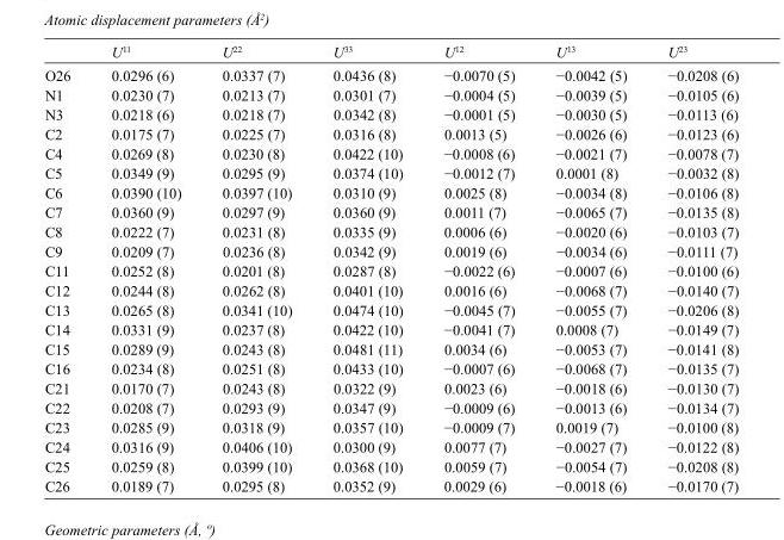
<table><thead><tr><td></td><td>U<sup>11</sup></td><td>U<sup>22</sup></td><td>U<sup>33</sup></td><td>U<sup>12</sup></td><td>U<sup>13</sup></td><td>U<sup>23</sup></td></tr></thead><tbody><tr><td>O26</td><td>0.0296 (6)</td><td>0.0337 (7)</td><td>0.0436 (8)</td><td>−0.0070 (5)</td><td>−0.0042 (5)</td><td>−0.0208 (6)</td></tr><tr><td>N1</td><td>0.0230 (7)</td><td>0.0213 (7)</td><td>0.0301 (7)</td><td>−0.0004 (5)</td><td>−0.0039 (5)</td><td>−0.0105 (6)</td></tr><tr><td>N3</td><td>0.0218 (6)</td><td>0.0218 (7)</td><td>0.0342 (8)</td><td>−0.0001 (5)</td><td>−0.0030 (5)</td><td>−0.0113 (6)</td></tr><tr><td>C2</td><td>0.0175 (7)</td><td>0.0225 (7)</td><td>0.0316 (8)</td><td>0.0013 (5)</td><td>−0.0026 (6)</td><td>−0.0123 (6)</td></tr><tr><td>C4</td><td>0.0269 (8)</td><td>0.0230 (8)</td><td>0.0422 (10)</td><td>−0.0008 (6)</td><td>−0.0021 (7)</td><td>−0.0078 (7)</td></tr><tr><td>C5</td><td>0.0349 (9)</td><td>0.0295 (9)</td><td>0.0374 (10)</td><td>−0.0012 (7)</td><td>0.0001 (8)</td><td>−0.0032 (8)</td></tr><tr><td>C6</td><td>0.0390 (10)</td><td>0.0397 (10)</td><td>0.0310 (9)</td><td>0.0025 (8)</td><td>−0.0034 (8)</td><td>−0.0106 (8)</td></tr><tr><td>C7</td><td>0.0360 (9)</td><td>0.0297 (9)</td><td>0.0360 (9)</td><td>0.0011 (7)</td><td>−0.0065 (7)</td><td>−0.0135 (8)</td></tr><tr><td>C8</td><td>0.0222 (7)</td><td>0.0231 (8)</td><td>0.0335 (9)</td><td>0.0006 (6)</td><td>−0.0020 (6)</td><td>−0.0103 (7)</td></tr><tr><td>C9</td><td>0.0209 (7)</td><td>0.0236 (8)</td><td>0.0342 (9)</td><td>0.0019 (6)</td><td>−0.0034 (6)</td><td>−0.0111 (7)</td></tr><tr><td>C11</td><td>0.0252 (8)</td><td>0.0201 (8)</td><td>0.0287 (8)</td><td>−0.0022 (6)</td><td>−0.0007 (6)</td><td>−0.0100 (6)</td></tr><tr><td>C12</td><td>0.0244 (8)</td><td>0.0262 (8)</td><td>0.0401 (10)</td><td>0.0016 (6)</td><td>−0.0068 (7)</td><td>−0.0140 (7)</td></tr><tr><td>C13</td><td>0.0265 (8)</td><td>0.0341 (10)</td><td>0.0474 (10)</td><td>−0.0045 (7)</td><td>−0.0055 (7)</td><td>−0.0206 (8)</td></tr><tr><td>C14</td><td>0.0331 (9)</td><td>0.0237 (8)</td><td>0.0422 (10)</td><td>−0.0041 (7)</td><td>0.0008 (7)</td><td>−0.0149 (7)</td></tr><tr><td>C15</td><td>0.0289 (9)</td><td>0.0243 (8)</td><td>0.0481 (11)</td><td>0.0034 (6)</td><td>−0.0053 (7)</td><td>−0.0141 (8)</td></tr><tr><td>C16</td><td>0.0234 (8)</td><td>0.0251 (8)</td><td>0.0433 (10)</td><td>−0.0007 (6)</td><td>−0.0068 (7)</td><td>−0.0135 (7)</td></tr><tr><td>C21</td><td>0.0170 (7)</td><td>0.0243 (8)</td><td>0.0322 (9)</td><td>0.0023 (6)</td><td>−0.0018 (6)</td><td>−0.0130 (7)</td></tr><tr><td>C22</td><td>0.0208 (7)</td><td>0.0293 (9)</td><td>0.0347 (9)</td><td>−0.0009 (6)</td><td>−0.0013 (6)</td><td>−0.0134 (7)</td></tr><tr><td>C23</td><td>0.0285 (9)</td><td>0.0318 (9)</td><td>0.0357 (10)</td><td>−0.0009 (7)</td><td>0.0019 (7)</td><td>−0.0100 (8)</td></tr><tr><td>C24</td><td>0.0316 (9)</td><td>0.0406 (10)</td><td>0.0300 (9)</td><td>0.0077 (7)</td><td>−0.0027 (7)</td><td>−0.0122 (8)</td></tr><tr><td>C25</td><td>0.0259 (8)</td><td>0.0399 (10)</td><td>0.0368 (10)</td><td>0.0059 (7)</td><td>−0.0054 (7)</td><td>−0.0208 (8)</td></tr><tr><td>C26</td><td>0.0189 (7)</td><td>0.0295 (8)</td><td>0.0352 (9)</td><td>0.0029 (6)</td><td>−0.0018 (6)</td><td>−0.0170 (7)</td></tr></tbody></table>